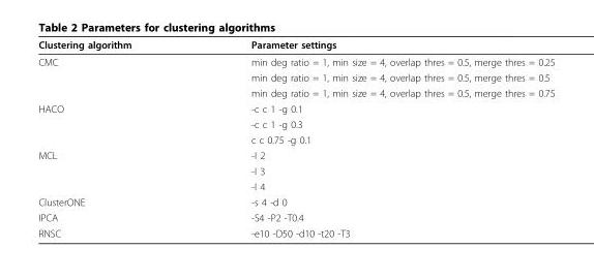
<table><thead><tr><td>Clustering algorithm</td><td>Parameter settings</td></tr></thead><tbody><tr><td rowspan="3">CMC</td><td>min deg ratio = 1, min size = 4, overlap thres = 0.5, merge thres = 0.25</td></tr><tr><td>min deg ratio = 1, min size = 4, overlap thres = 0.5, merge thres = 0.5</td></tr><tr><td>min deg ratio = 1, min size = 4, overlap thres = 0.5, merge thres = 0.75</td></tr><tr><td rowspan="3">HACO</td><td>-c c 1 -g 0.1</td></tr><tr><td>-c c 1 -g 0.3</td></tr><tr><td>c c 0.75 -g 0.1</td></tr><tr><td rowspan="3">MCL</td><td>-I 2</td></tr><tr><td>-I 3</td></tr><tr><td>-I 4</td></tr><tr><td>ClusterONE</td><td>-s 4 -d 0</td></tr><tr><td>IPCA</td><td>-S4 -P2 -T0.4</td></tr><tr><td>RNSC</td><td>-e10 -D50 -d10 -t20 -T3</td></tr></tbody></table>